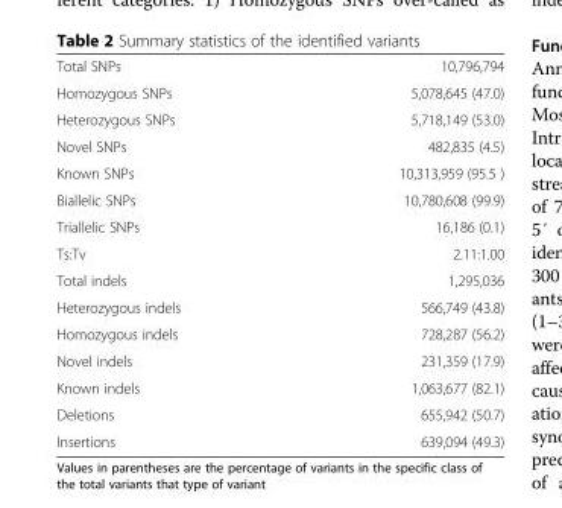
<table><tbody><tr><td>Total SNPs</td><td>10,796,794</td></tr><tr><td>Homozygous SNPs</td><td>5,078,645 (47.0)</td></tr><tr><td>Heterozygous SNPs</td><td>5,718,149 (53.0)</td></tr><tr><td>Novel SNPs</td><td>482,835 (4.5)</td></tr><tr><td>Known SNPs</td><td>10,313,959 (95.5 )</td></tr><tr><td>Biallelic SNPs</td><td>10,780,608 (99.9)</td></tr><tr><td>Triallelic SNPs</td><td>16,186 (0.1)</td></tr><tr><td>Ts:Tv</td><td>2.11:1.00</td></tr><tr><td>Total indels</td><td>1,295,036</td></tr><tr><td>Heterozygous indels</td><td>566,749 (43.8)</td></tr><tr><td>Homozygous indels</td><td>728,287 (56.2)</td></tr><tr><td>Novel indels</td><td>231,359 (17.9)</td></tr><tr><td>Known indels</td><td>1,063,677 (82.1)</td></tr><tr><td>Deletions</td><td>655,942 (50.7)</td></tr><tr><td>Insertions</td><td>639,094 (49.3)</td></tr></tbody></table>